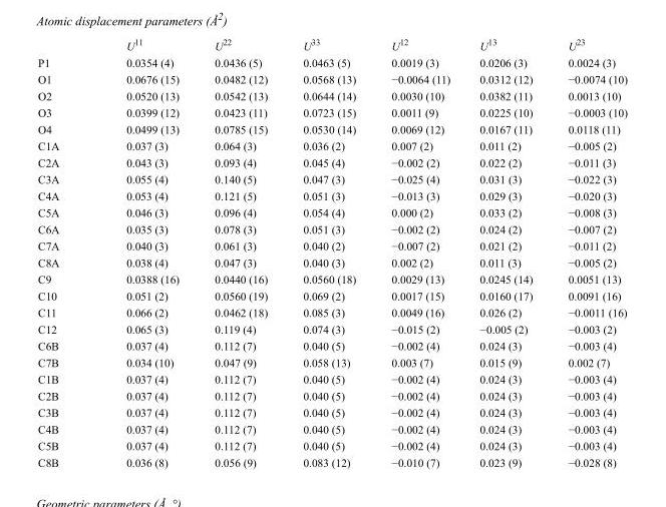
<table><thead><tr><td></td><td>U<sup>11</sup></td><td>U<sup>22</sup></td><td>U<sup>33</sup></td><td>U<sup>12</sup></td><td>U<sup>13</sup></td><td>U<sup>23</sup></td></tr></thead><tbody><tr><td>P1</td><td>0.0354 (4)</td><td>0.0436 (5)</td><td>0.0463 (5)</td><td>0.0019 (3)</td><td>0.0206 (3)</td><td>0.0024 (3)</td></tr><tr><td>O1</td><td>0.0676 (15)</td><td>0.0482 (12)</td><td>0.0568 (13)</td><td>−0.0064 (11)</td><td>0.0312 (12)</td><td>−0.0074 (10)</td></tr><tr><td>O2</td><td>0.0520 (13)</td><td>0.0542 (13)</td><td>0.0644 (14)</td><td>0.0030 (10)</td><td>0.0382 (11)</td><td>0.0013 (10)</td></tr><tr><td>O3</td><td>0.0399 (12)</td><td>0.0423 (11)</td><td>0.0723 (15)</td><td>0.0011 (9)</td><td>0.0225 (10)</td><td>−0.0003 (10)</td></tr><tr><td>O4</td><td>0.0499 (13)</td><td>0.0785 (15)</td><td>0.0530 (14)</td><td>0.0069 (12)</td><td>0.0167 (11)</td><td>0.0118 (11)</td></tr><tr><td>C1A</td><td>0.037 (3)</td><td>0.064 (3)</td><td>0.036 (2)</td><td>0.007 (2)</td><td>0.011 (2)</td><td>−0.005 (2)</td></tr><tr><td>C2A</td><td>0.043 (3)</td><td>0.093 (4)</td><td>0.045 (4)</td><td>−0.002 (2)</td><td>0.022 (2)</td><td>−0.011 (3)</td></tr><tr><td>C3A</td><td>0.055 (4)</td><td>0.140 (5)</td><td>0.047 (3)</td><td>−0.025 (4)</td><td>0.031 (3)</td><td>−0.022 (3)</td></tr><tr><td>C4A</td><td>0.053 (4)</td><td>0.121 (5)</td><td>0.051 (3)</td><td>−0.013 (3)</td><td>0.029 (3)</td><td>−0.020 (3)</td></tr><tr><td>C5A</td><td>0.046 (3)</td><td>0.096 (4)</td><td>0.054 (4)</td><td>0.000 (2)</td><td>0.033 (2)</td><td>−0.008 (3)</td></tr><tr><td>C6A</td><td>0.035 (3)</td><td>0.078 (3)</td><td>0.051 (3)</td><td>−0.002 (2)</td><td>0.024 (2)</td><td>−0.007 (2)</td></tr><tr><td>C7A</td><td>0.040 (3)</td><td>0.061 (3)</td><td>0.040 (2)</td><td>−0.007 (2)</td><td>0.021 (2)</td><td>−0.011 (2)</td></tr><tr><td>C8A</td><td>0.038 (4)</td><td>0.047 (3)</td><td>0.040 (3)</td><td>0.002 (2)</td><td>0.011 (3)</td><td>−0.005 (2)</td></tr><tr><td>C9</td><td>0.0388 (16)</td><td>0.0440 (16)</td><td>0.0560 (18)</td><td>0.0029 (13)</td><td>0.0245 (14)</td><td>0.0051 (13)</td></tr><tr><td>C10</td><td>0.051 (2)</td><td>0.0560 (19)</td><td>0.069 (2)</td><td>0.0017 (15)</td><td>0.0160 (17)</td><td>0.0091 (16)</td></tr><tr><td>C11</td><td>0.066 (2)</td><td>0.0462 (18)</td><td>0.085 (3)</td><td>0.0049 (16)</td><td>0.026 (2)</td><td>−0.0011 (16)</td></tr><tr><td>C12</td><td>0.065 (3)</td><td>0.119 (4)</td><td>0.074 (3)</td><td>−0.015 (2)</td><td>−0.005 (2)</td><td>−0.003 (2)</td></tr><tr><td>C6B</td><td>0.037 (4)</td><td>0.112 (7)</td><td>0.040 (5)</td><td>−0.002 (4)</td><td>0.024 (3)</td><td>−0.003 (4)</td></tr><tr><td>C7B</td><td>0.034 (10)</td><td>0.047 (9)</td><td>0.058 (13)</td><td>0.003 (7)</td><td>0.015 (9)</td><td>0.002 (7)</td></tr><tr><td>C1B</td><td>0.037 (4)</td><td>0.112 (7)</td><td>0.040 (5)</td><td>−0.002 (4)</td><td>0.024 (3)</td><td>−0.003 (4)</td></tr><tr><td>C2B</td><td>0.037 (4)</td><td>0.112 (7)</td><td>0.040 (5)</td><td>−0.002 (4)</td><td>0.024 (3)</td><td>−0.003 (4)</td></tr><tr><td>C3B</td><td>0.037 (4)</td><td>0.112 (7)</td><td>0.040 (5)</td><td>−0.002 (4)</td><td>0.024 (3)</td><td>−0.003 (4)</td></tr><tr><td>C4B</td><td>0.037 (4)</td><td>0.112 (7)</td><td>0.040 (5)</td><td>−0.002 (4)</td><td>0.024 (3)</td><td>−0.003 (4)</td></tr><tr><td>C5B</td><td>0.037 (4)</td><td>0.112 (7)</td><td>0.040 (5)</td><td>−0.002 (4)</td><td>0.024 (3)</td><td>−0.003 (4)</td></tr><tr><td>C8B</td><td>0.036 (8)</td><td>0.056 (9)</td><td>0.083 (12)</td><td>−0.010 (7)</td><td>0.023 (9)</td><td>−0.028 (8)</td></tr></tbody></table>